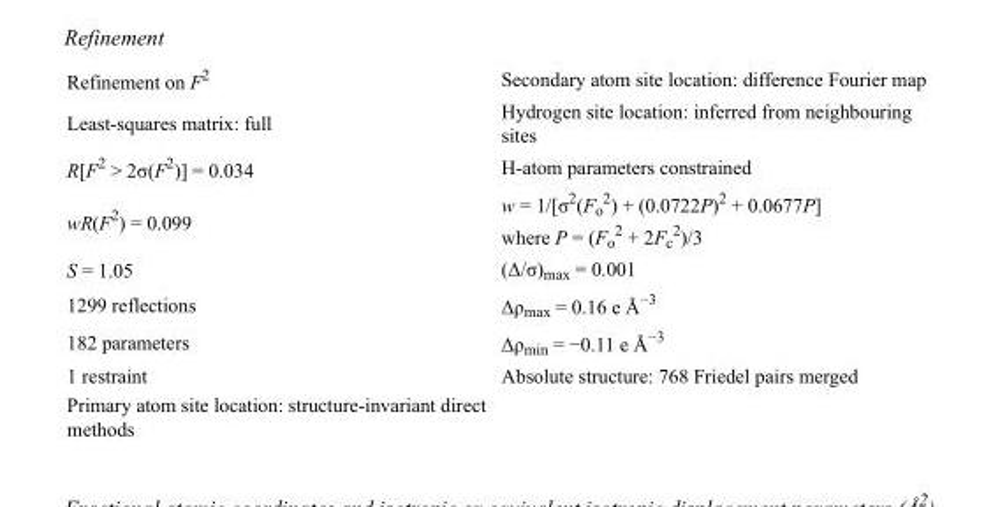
<table><tbody><tr><td>Refinement on F<sup>2</sup></td><td>Secondary atom site location: difference Fourier map</td></tr><tr><td>Least-squares matrix: full</td><td>Hydrogen site location: inferred from neighbouring sites</td></tr><tr><td>R[F<sup>2</sup> &gt; 2σ(F<sup>2</sup>)] = 0.034</td><td>H-atom parameters constrained</td></tr><tr><td>wR(F<sup>2</sup>) = 0.099</td><td>w = 1/[σ<sup>2</sup>(F<sub>o</sub> <sup>2</sup>) + (0.0722P)<sup>2</sup> + 0.0677P] where P = (F<sub>o</sub> <sup>2</sup> + 2F<sub>c</sub> <sup>2</sup>)/3</td></tr><tr><td>S = 1.05</td><td>(Δ/σ)<sub>max</sub> = 0.001</td></tr><tr><td>1299 reflections</td><td>Δρ<sub>max</sub> = 0.16 e Å<sup>−3</sup></td></tr><tr><td>182 parameters</td><td>Δρ<sub>min</sub> = −0.11 e Å<sup>−3</sup></td></tr><tr><td>1 restraint</td><td>Absolute structure: 768 Friedel pairs merged</td></tr><tr><td>Primary atom site location: structure-invariant direct methods</td><td></td></tr></tbody></table>